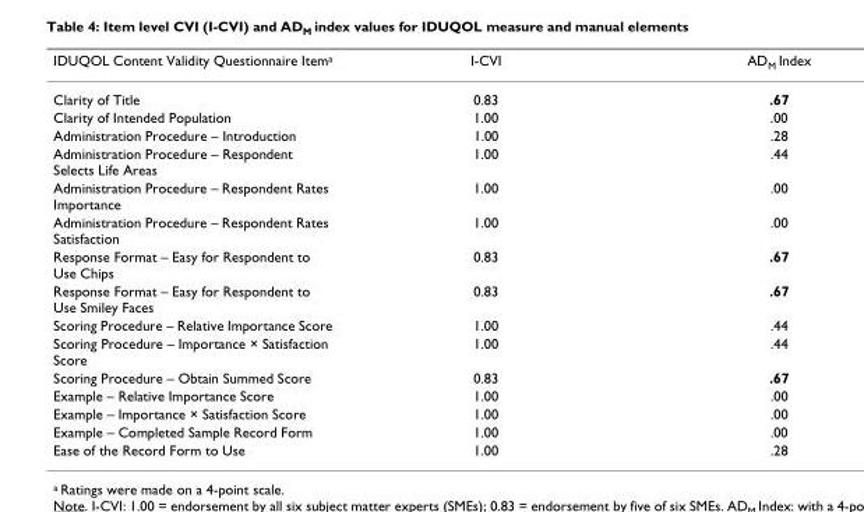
<table><thead><tr><td>IDUQOL Content Validity Questionnaire Item<sup>a</sup></td><td>I-CVI</td><td>AD<sub>M</sub> Index</td></tr></thead><tbody><tr><td>Clarity of Title</td><td>0.83</td><td>.67</td></tr><tr><td>Clarity of Intended Population</td><td>1.00</td><td>.00</td></tr><tr><td>Administration Procedure – Introduction</td><td>1.00</td><td>.28</td></tr><tr><td>Administration Procedure – Respondent Selects Life Areas</td><td>1.00</td><td>.44</td></tr><tr><td>Administration Procedure – Respondent Rates Importance</td><td>1.00</td><td>.00</td></tr><tr><td>Administration Procedure – Respondent Rates Satisfaction</td><td>1.00</td><td>.00</td></tr><tr><td>Response Format – Easy for Respondent to Use Chips</td><td>0.83</td><td>.67</td></tr><tr><td>Response Format – Easy for Respondent to Use Smiley Faces</td><td>0.83</td><td>.67</td></tr><tr><td>Scoring Procedure – Relative Importance Score</td><td>1.00</td><td>.44</td></tr><tr><td>Scoring Procedure – Importance × Satisfaction Score</td><td>1.00</td><td>.44</td></tr><tr><td>Scoring Procedure – Obtain Summed Score</td><td>0.83</td><td>.67</td></tr><tr><td>Example – Relative Importance Score</td><td>1.00</td><td>.00</td></tr><tr><td>Example – Importance × Satisfaction Score</td><td>1.00</td><td>.00</td></tr><tr><td>Example – Completed Sample Record Form</td><td>1.00</td><td>.00</td></tr><tr><td>Ease of the Record Form to Use</td><td>1.00</td><td>.28</td></tr></tbody></table>